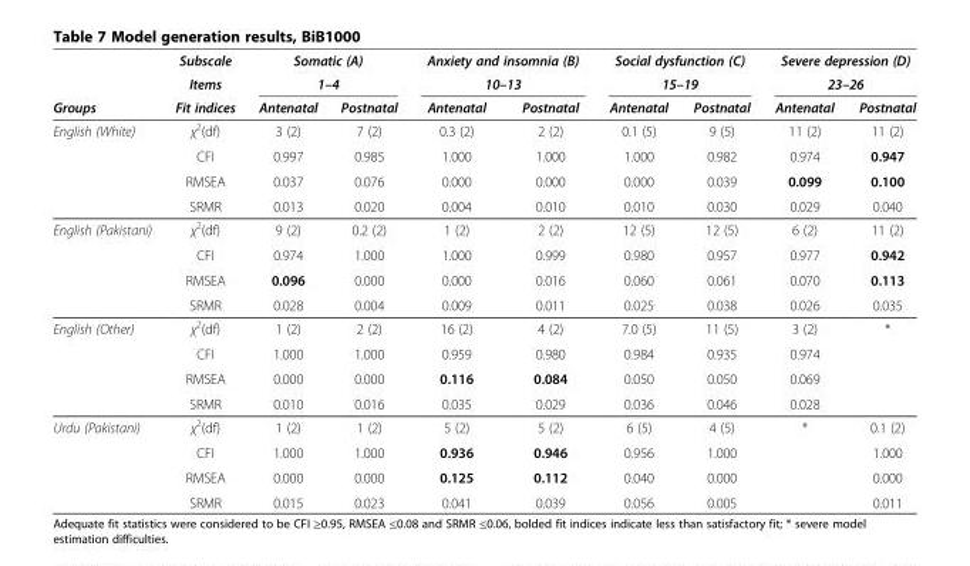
<table><thead><tr><td rowspan="3">Groups</td><td rowspan="3">Subscale Items Fit indices</td><td rowspan="2" colspan="2">Somatic (A) 1–4</td><td rowspan="2" colspan="2">Anxiety and insomnia (B) 10–13</td><td rowspan="2" colspan="2">Social dysfunction (C) 15–19</td><td rowspan="2" colspan="2">Severe depression (D) 23–26</td></tr><tr></tr><tr><td>Antenatal</td><td>Postnatal</td><td>Antenatal</td><td>Postnatal</td><td>Antenatal</td><td>Postnatal</td><td>Antenatal</td><td>Postnatal</td></tr></thead><tbody><tr><td rowspan="4">English (White)</td><td>χ<sup>2</sup>(df)</td><td>3 (2)</td><td>7 (2)</td><td>0.3 (2)</td><td>2 (2)</td><td>0.1 (5)</td><td>9 (5)</td><td>11 (2)</td><td>11 (2)</td></tr><tr><td>CFI</td><td>0.997</td><td>0.985</td><td>1.000</td><td>1.000</td><td>1.000</td><td>0.982</td><td>0.974</td><td>0.947</td></tr><tr><td>RMSEA</td><td>0.037</td><td>0.076</td><td>0.000</td><td>0.000</td><td>0.000</td><td>0.039</td><td>0.099</td><td>0.100</td></tr><tr><td>SRMR</td><td>0.013</td><td>0.020</td><td>0.004</td><td>0.010</td><td>0.010</td><td>0.030</td><td>0.029</td><td>0.040</td></tr><tr><td rowspan="4">English (Pakistani)</td><td>χ<sup>2</sup>(df)</td><td>9 (2)</td><td>0.2 (2)</td><td>1 (2)</td><td>2 (2)</td><td>12 (5)</td><td>12 (5)</td><td>6 (2)</td><td>11 (2)</td></tr><tr><td>CFI</td><td>0.974</td><td>1.000</td><td>1.000</td><td>0.999</td><td>0.980</td><td>0.957</td><td>0.977</td><td>0.942</td></tr><tr><td>RMSEA</td><td>0.096</td><td>0.000</td><td>0.000</td><td>0.016</td><td>0.060</td><td>0.061</td><td>0.070</td><td>0.113</td></tr><tr><td>SRMR</td><td>0.028</td><td>0.004</td><td>0.009</td><td>0.011</td><td>0.025</td><td>0.038</td><td>0.026</td><td>0.035</td></tr><tr><td rowspan="4">English (Other)</td><td>χ<sup>2</sup>(df)</td><td>1 (2)</td><td>2 (2)</td><td>16 (2)</td><td>4 (2)</td><td>7.0 (5)</td><td>11 (5)</td><td>3 (2)</td><td>*</td></tr><tr><td>CFI</td><td>1.000</td><td>1.000</td><td>0.959</td><td>0.980</td><td>0.984</td><td>0.935</td><td>0.974</td><td></td></tr><tr><td>RMSEA</td><td>0.000</td><td>0.000</td><td>0.116</td><td>0.084</td><td>0.050</td><td>0.050</td><td>0.069</td><td></td></tr><tr><td>SRMR</td><td>0.010</td><td>0.016</td><td>0.035</td><td>0.029</td><td>0.036</td><td>0.046</td><td>0.028</td><td></td></tr><tr><td rowspan="4">Urdu (Pakistani)</td><td>χ<sup>2</sup>(df)</td><td>1 (2)</td><td>1 (2)</td><td>5 (2)</td><td>5 (2)</td><td>6 (5)</td><td>4 (5)</td><td>*</td><td>0.1 (2)</td></tr><tr><td>CFI</td><td>1.000</td><td>1.000</td><td>0.936</td><td>0.946</td><td>0.956</td><td>1.000</td><td></td><td>1.000</td></tr><tr><td>RMSEA</td><td>0.000</td><td>0.000</td><td>0.125</td><td>0.112</td><td>0.040</td><td>0.000</td><td></td><td>0.000</td></tr><tr><td>SRMR</td><td>0.015</td><td>0.023</td><td>0.041</td><td>0.039</td><td>0.056</td><td>0.005</td><td></td><td>0.011</td></tr></tbody></table>